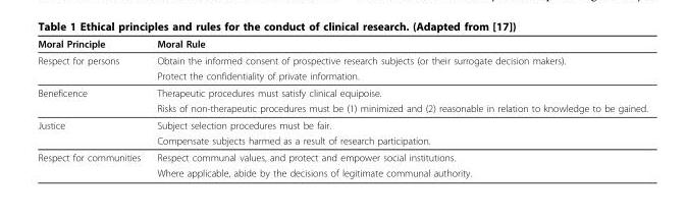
<table><thead><tr><td>Moral Principle</td><td>Moral Rule</td></tr></thead><tbody><tr><td rowspan="2">Respect for persons</td><td>Obtain the informed consent of prospective research subjects (or their surrogate decision makers).</td></tr><tr><td>Protect the confidentiality of private information.</td></tr><tr><td rowspan="2">Beneficence</td><td>Therapeutic procedures must satisfy clinical equipoise.</td></tr><tr><td>Risks of non-therapeutic procedures must be (1) minimized and (2) reasonable in relation to knowledge to be gained.</td></tr><tr><td rowspan="2">Justice</td><td>Subject selection procedures must be fair.</td></tr><tr><td>Compensate subjects harmed as a result of research participation.</td></tr><tr><td rowspan="2">Respect for communities</td><td>Respect communal values, and protect and empower social institutions.</td></tr><tr><td>Where applicable, abide by the decisions of legitimate communal authority.</td></tr></tbody></table>